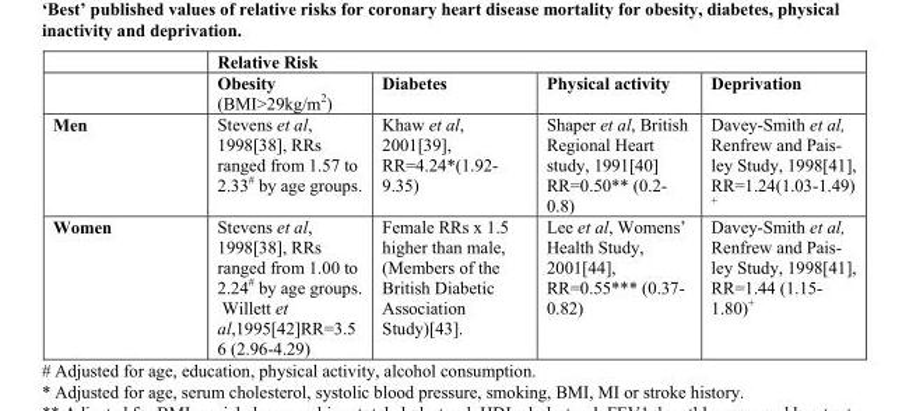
<table><thead><tr><td rowspan="2"></td><td colspan="4">Relative Risk</td></tr><tr><td>Obesity (BMI&gt;29kg/m<sup>2</sup>)</td><td>Diabetes</td><td>Physical activity</td><td>Deprivation</td></tr></thead><tbody><tr><td>Men</td><td>Stevens et al, 1998[38], RRs ranged from 1.57 to 2.33<sup>#</sup> by age groups.</td><td>Khaw et al, 2001[39], RR=4.24*(1.92- 9.35)</td><td>Shaper et al, British Regional Heart study, 1991[40] RR=0.50** (0.2- 0.8)</td><td>Davey-Smith et al, Renfrew and Pais- ley Study, 1998[41], RR=1.24(1.03-1.49) +</td></tr><tr><td>Women</td><td>Stevens et al, 1998[38], RRs ranged from 1.00 to 2.24# by age groups. Willett et al,1995[42]RR=3.5 6 (2.96-4.29)</td><td>Female RRs x 1.5 higher than male, (Members of the British Diabetic Association Study)[43].</td><td>Lee et al, Womens’ Health Study, 2001[44], RR=0.55*** (0.37- 0.82)</td><td>Davey-Smith et al, Renfrew and Pais- ley Study, 1998[41], RR=1.44 (1.15- 1.80)+</td></tr></tbody></table>